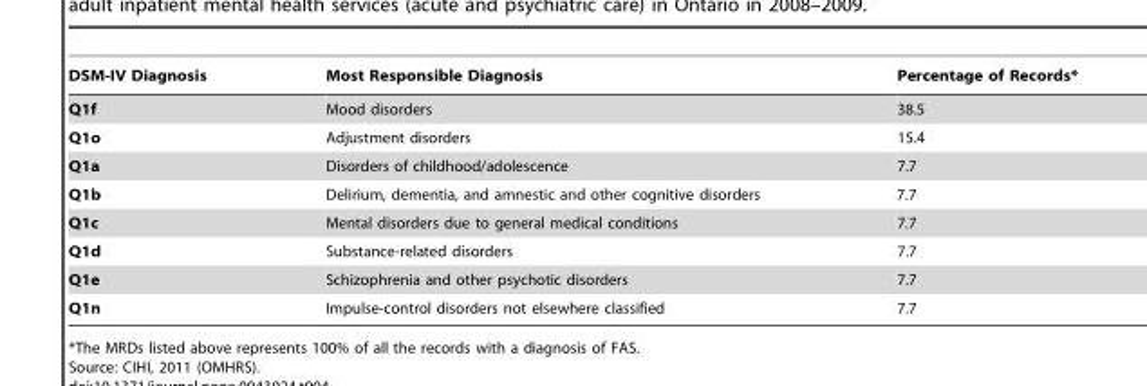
<table><thead><tr><td>DSM-IV Diagnosis</td><td>Most Responsible Diagnosis</td><td>Percentage of Records*</td></tr></thead><tbody><tr><td>Q1f</td><td>Mood disorders</td><td>38.5</td></tr><tr><td>Q1o</td><td>Adjustment disorders</td><td>15.4</td></tr><tr><td>Q1a</td><td>Disorders of childhood/adolescence</td><td>7.7</td></tr><tr><td>Q1b</td><td>Delirium, dementia, and amnestic and other cognitive disorders</td><td>7.7</td></tr><tr><td>Q1c</td><td>Mental disorders due to general medical conditions</td><td>7.7</td></tr><tr><td>Q1d</td><td>Substance-related disorders</td><td>7.7</td></tr><tr><td>Q1e</td><td>Schizophrenia and other psychotic disorders</td><td>7.7</td></tr><tr><td>Q1n</td><td>Impulse-control disorders not elsewhere classified</td><td>7.7</td></tr></tbody></table>